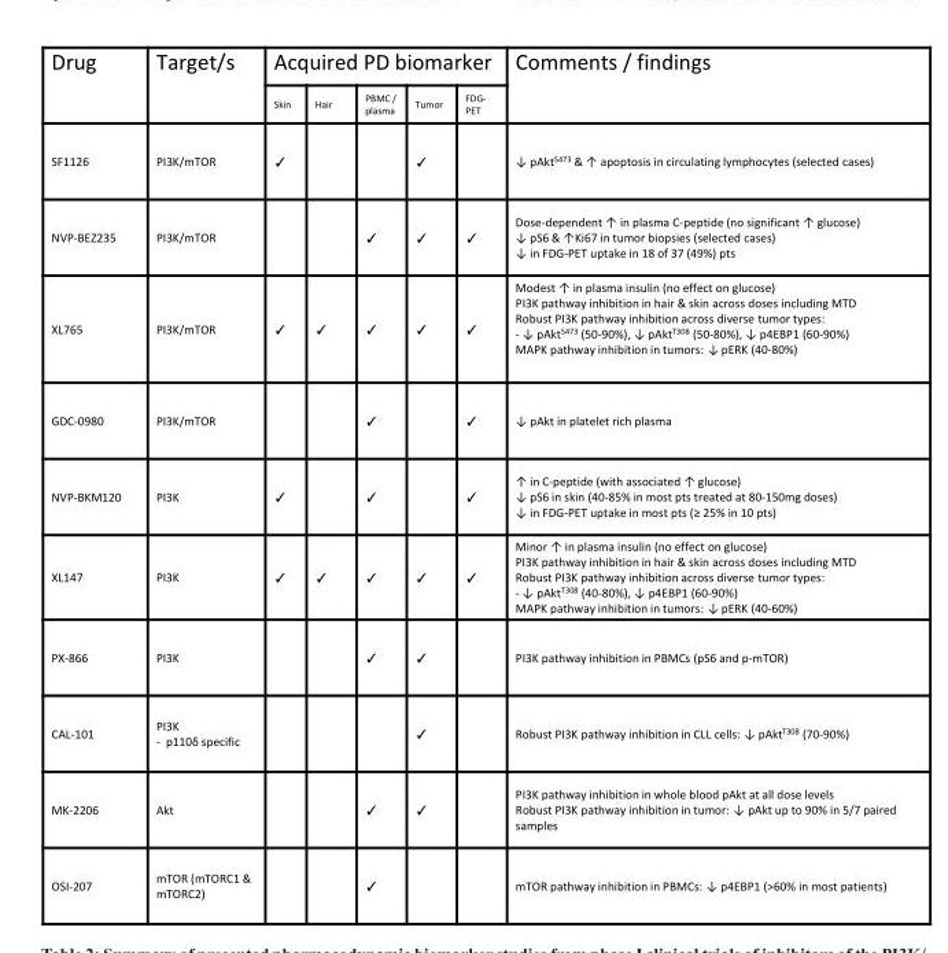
<table><thead><tr><td rowspan="2">Drug</td><td rowspan="2">Target/s</td><td colspan="5">Acquired PD biomarker</td><td rowspan="2">Comments / findings</td></tr><tr><td>Skin</td><td>Hair</td><td>PBMC / plasma</td><td>Tumor</td><td>FDG- PET</td></tr></thead><tbody><tr><td>SF1126</td><td>PI3K/mTOR</td><td>✓</td><td></td><td></td><td>✓</td><td></td><td>↓ pAkt<sup>S473</sup> &amp; ↑ apoptosis in circulating lymphocytes (selected cases)</td></tr><tr><td>NVP-BEZ235</td><td>PI3K/mTOR</td><td></td><td></td><td>✓</td><td>✓</td><td>✓</td><td>Dose-dependent ↑ in plasma C-peptide (no significant ↑ glucose) ↓ pS6 &amp; ↑Ki67 in tumor biopsies (selected cases) ↓ in FDG-PET uptake in 18 of 37 (49%) pts</td></tr><tr><td>XL765</td><td>PI3K/mTOR</td><td>✓</td><td>✓</td><td>✓</td><td>✓</td><td>✓</td><td>Modest ↑ in plasma insulin (no effect on glucose) PI3K pathway inhibition in hair &amp; skin across doses including MTD Robust PI3K pathway inhibition across diverse tumor types: - ↓ pAkt<sup>S473</sup> (50-90%), ↓ pAkt<sup>T308</sup> (50-80%), ↓ p4EBP1 (60-90%) MAPK pathway inhibition in tumors: ↓ pERK (40-80%)</td></tr><tr><td>GDC-0980</td><td>PI3K/mTOR</td><td></td><td></td><td>✓</td><td></td><td>✓</td><td>↓ pAkt in platelet rich plasma</td></tr><tr><td>NVP-BKM120</td><td>PI3K</td><td>✓</td><td></td><td>✓</td><td></td><td>✓</td><td>↑ in C-peptide (with associated ↑ glucose) ↓ pS6 in skin (40-85% in most pts treated at 80-150mg doses) ↓ in FDG-PET uptake in most pts (≥ 25% in 10 pts)</td></tr><tr><td>XL147</td><td>PI3K</td><td>✓</td><td>✓</td><td>✓</td><td>✓</td><td>✓</td><td>Minor ↑ in plasma insulin (no effect on glucose) PI3K pathway inhibition in hair &amp; skin across doses including MTD Robust PI3K pathway inhibition across diverse tumor types: - ↓ pAkt<sup>T308</sup> (40-80%), ↓ p4EBP1 (60-90%) MAPK pathway inhibition in tumors: ↓ pERK (40-60%)</td></tr><tr><td>PX-866</td><td>PI3K</td><td></td><td></td><td>✓</td><td>✓</td><td></td><td>PI3K pathway inhibition in PBMCs (pS6 and p-mTOR)</td></tr><tr><td>CAL-101</td><td>PI3K - p110δ specific</td><td></td><td></td><td></td><td>✓</td><td></td><td>Robust PI3K pathway inhibition in CLL cells: ↓ pAkt<sup>T308</sup> (70-90%)</td></tr><tr><td>MK-2206</td><td>Akt</td><td></td><td></td><td>✓</td><td>✓</td><td></td><td>PI3K pathway inhibition in whole blood pAkt at all dose levels Robust PI3K pathway inhibition in tumor: ↓ pAkt up to 90% in 5/7 paired samples</td></tr><tr><td>OSI-207</td><td>mTOR (mTORC1 &amp; mTORC2)</td><td></td><td></td><td>✓</td><td></td><td></td><td>mTOR pathway inhibition in PBMCs: ↓ p4EBP1 (&gt;60% in most patients)</td></tr></tbody></table>